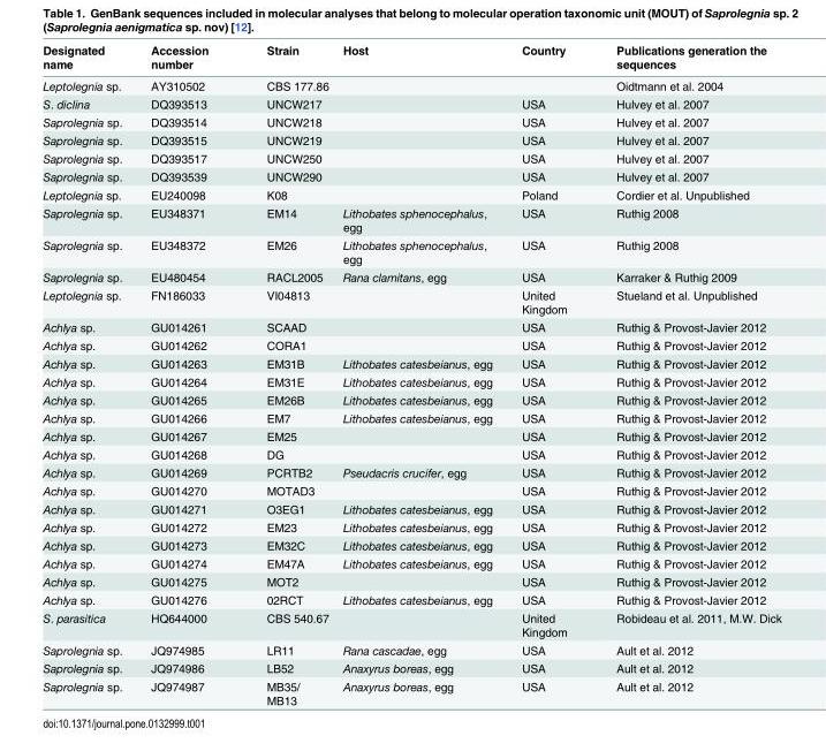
<table><thead><tr><td>Designated name</td><td>Accession number</td><td>Strain</td><td>Host</td><td>Country</td><td>Publications generation the sequences</td></tr></thead><tbody><tr><td>Leptolegnia sp.</td><td>AY310502</td><td>CBS 177.86</td><td></td><td></td><td>Oidtmann et al. 2004</td></tr><tr><td>S. diclina</td><td>DQ393513</td><td>UNCW217</td><td></td><td>USA</td><td>Hulvey et al. 2007</td></tr><tr><td>Saprolegnia sp.</td><td>DQ393514</td><td>UNCW218</td><td></td><td>USA</td><td>Hulvey et al. 2007</td></tr><tr><td>Saprolegnia sp.</td><td>DQ393515</td><td>UNCW219</td><td></td><td>USA</td><td>Hulvey et al. 2007</td></tr><tr><td>Saprolegnia sp.</td><td>DQ393517</td><td>UNCW250</td><td></td><td>USA</td><td>Hulvey et al. 2007</td></tr><tr><td>Saprolegnia sp.</td><td>DQ393539</td><td>UNCW290</td><td></td><td>USA</td><td>Hulvey et al. 2007</td></tr><tr><td>Leptolegnia sp.</td><td>EU240098</td><td>K08</td><td></td><td>Poland</td><td>Cordier et al. Unpublished</td></tr><tr><td>Saprolegnia sp.</td><td>EU348371</td><td>EM14</td><td>Lithobates sphenocephalus, egg</td><td>USA</td><td>Ruthig 2008</td></tr><tr><td>Saprolegnia sp.</td><td>EU348372</td><td>EM26</td><td>Lithobates sphenocephalus, egg</td><td>USA</td><td>Ruthig 2008</td></tr><tr><td>Saprolegnia sp.</td><td>EU480454</td><td>RACL2005</td><td>Rana clamitans, egg</td><td>USA</td><td>Karraker &amp; Ruthig 2009</td></tr><tr><td>Leptolegnia sp.</td><td>FN186033</td><td>VI04813</td><td></td><td>United Kingdom</td><td>Stueland et al. Unpublished</td></tr><tr><td>Achlya sp.</td><td>GU014261</td><td>SCAAD</td><td></td><td>USA</td><td>Ruthig &amp; Provost-Javier 2012</td></tr><tr><td>Achlya sp.</td><td>GU014262</td><td>CORA1</td><td></td><td>USA</td><td>Ruthig &amp; Provost-Javier 2012</td></tr><tr><td>Achlya sp.</td><td>GU014263</td><td>EM31B</td><td>Lithobates catesbeianus, egg</td><td>USA</td><td>Ruthig &amp; Provost-Javier 2012</td></tr><tr><td>Achlya sp.</td><td>GU014264</td><td>EM31E</td><td>Lithobates catesbeianus, egg</td><td>USA</td><td>Ruthig &amp; Provost-Javier 2012</td></tr><tr><td>Achlya sp.</td><td>GU014265</td><td>EM26B</td><td>Lithobates catesbeianus, egg</td><td>USA</td><td>Ruthig &amp; Provost-Javier 2012</td></tr><tr><td>Achlya sp.</td><td>GU014266</td><td>EM7</td><td>Lithobates catesbeianus, egg</td><td>USA</td><td>Ruthig &amp; Provost-Javier 2012</td></tr><tr><td>Achlya sp.</td><td>GU014267</td><td>EM25</td><td></td><td>USA</td><td>Ruthig &amp; Provost-Javier 2012</td></tr><tr><td>Achlya sp.</td><td>GU014268</td><td>DG</td><td></td><td>USA</td><td>Ruthig &amp; Provost-Javier 2012</td></tr><tr><td>Achlya sp.</td><td>GU014269</td><td>PCRTB2</td><td>Pseudacris crucifer, egg</td><td>USA</td><td>Ruthig &amp; Provost-Javier 2012</td></tr><tr><td>Achlya sp.</td><td>GU014270</td><td>MOTAD3</td><td></td><td>USA</td><td>Ruthig &amp; Provost-Javier 2012</td></tr><tr><td>Achlya sp.</td><td>GU014271</td><td>O3EG1</td><td>Lithobates catesbeianus, egg</td><td>USA</td><td>Ruthig &amp; Provost-Javier 2012</td></tr><tr><td>Achlya sp.</td><td>GU014272</td><td>EM23</td><td>Lithobates catesbeianus, egg</td><td>USA</td><td>Ruthig &amp; Provost-Javier 2012</td></tr><tr><td>Achlya sp.</td><td>GU014273</td><td>EM32C</td><td>Lithobates catesbeianus, egg</td><td>USA</td><td>Ruthig &amp; Provost-Javier 2012</td></tr><tr><td>Achlya sp.</td><td>GU014274</td><td>EM47A</td><td>Lithobates catesbeianus, egg</td><td>USA</td><td>Ruthig &amp; Provost-Javier 2012</td></tr><tr><td>Achlya sp.</td><td>GU014275</td><td>MOT2</td><td></td><td>USA</td><td>Ruthig &amp; Provost-Javier 2012</td></tr><tr><td>Achlya sp.</td><td>GU014276</td><td>02RCT</td><td>Lithobates catesbeianus, egg</td><td>USA</td><td>Ruthig &amp; Provost-Javier 2012</td></tr><tr><td>S. parasitica</td><td>HQ644000</td><td>CBS 540.67</td><td></td><td>United Kingdom</td><td>Robideau et al. 2011, M.W. Dick</td></tr><tr><td>Saprolegnia sp.</td><td>JQ974985</td><td>LR11</td><td>Rana cascadae, egg</td><td>USA</td><td>Ault et al. 2012</td></tr><tr><td>Saprolegnia sp.</td><td>JQ974986</td><td>LB52</td><td>Anaxyrus boreas, egg</td><td>USA</td><td>Ault et al. 2012</td></tr><tr><td>Saprolegnia sp.</td><td>JQ974987</td><td>MB35/ MB13</td><td>Anaxyrus boreas, egg</td><td>USA</td><td>Ault et al. 2012</td></tr></tbody></table>